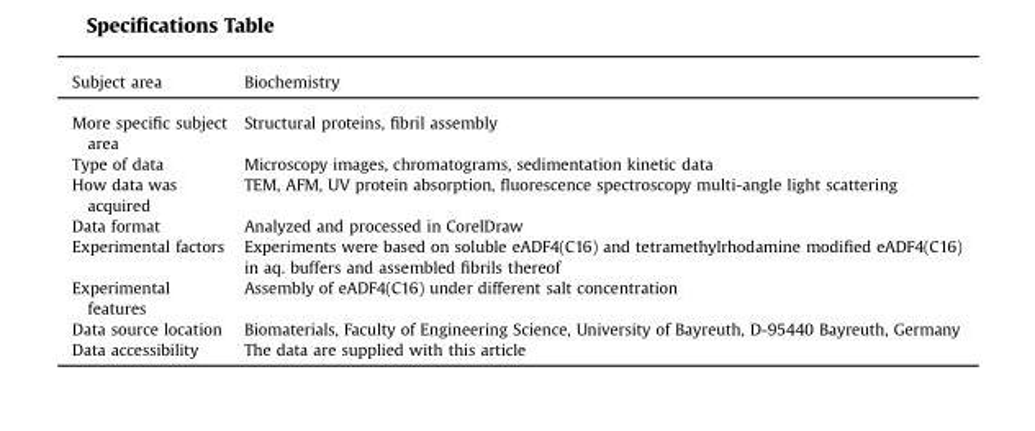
<table><thead><tr><td>Subject area</td><td>Biochemistry</td></tr></thead><tbody><tr><td>More specific subject area</td><td>Structural proteins, fibril assembly</td></tr><tr><td>Type of data</td><td>Microscopy images, chromatograms, sedimentation kinetic data</td></tr><tr><td>How data was acquired</td><td>TEM, AFM, UV protein absorption, fluorescence spectroscopy multi-angle light scattering</td></tr><tr><td>Data format</td><td>Analyzed and processed in CorelDraw</td></tr><tr><td>Experimental factors</td><td>Experiments were based on soluble eADF4(C16) and tetramethylrhodamine modified eADF4(C16) in aq. buffers and assembled fibrils thereof</td></tr><tr><td>Experimental features</td><td>Assembly of eADF4(C16) under different salt concentration</td></tr><tr><td>Data source location</td><td>Biomaterials, Faculty of Engineering Science, University of Bayreuth, D-95440 Bayreuth, Germany</td></tr><tr><td>Data accessibility</td><td>The data are supplied with this article</td></tr></tbody></table>